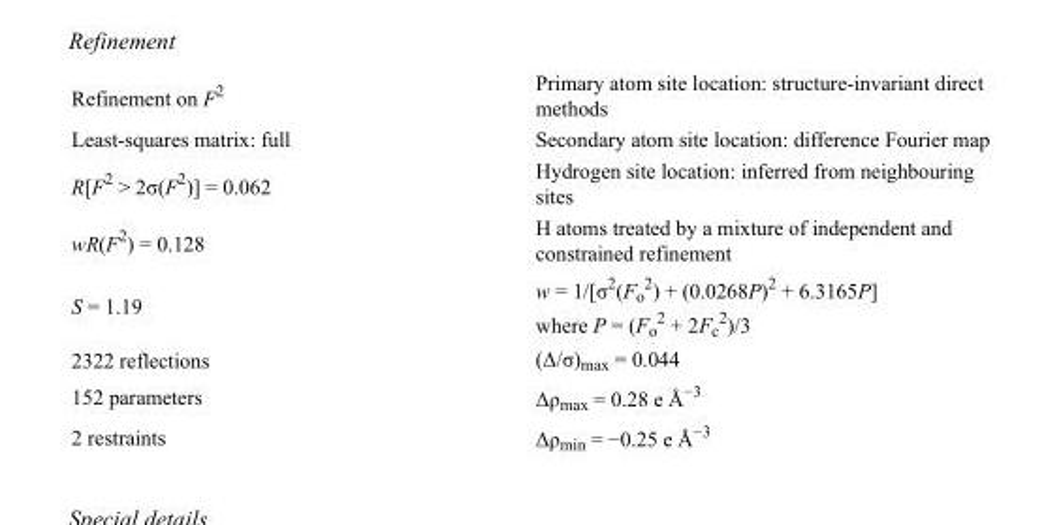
<table><tbody><tr><td>Refinement on F<sup>2</sup></td><td>Primary atom site location: structure-invariant direct methods</td></tr><tr><td>Least-squares matrix: full</td><td>Secondary atom site location: difference Fourier map</td></tr><tr><td>R[F<sup>2</sup> &gt; 2σ(F<sup>2</sup>)] = 0.062</td><td>Hydrogen site location: inferred from neighbouring sites</td></tr><tr><td>wR(F<sup>2</sup>) = 0.128</td><td>H atoms treated by a mixture of independent and constrained refinement</td></tr><tr><td>S = 1.19</td><td>w = 1/[σ<sup>2</sup>(F<sub>o</sub> <sup>2</sup>) + (0.0268P)<sup>2</sup> + 6.3165P] where P = (F<sub>o</sub> <sup>2</sup> + 2F<sub>c</sub> <sup>2</sup>)/3</td></tr><tr><td>2322 reflections</td><td>(Δ/σ)<sub>max</sub> = 0.044</td></tr><tr><td>152 parameters</td><td>Δρ<sub>max</sub> = 0.28 e Å<sup>−3</sup></td></tr><tr><td>2 restraints</td><td>Δρ<sub>min</sub> = −0.25 e Å<sup>−3</sup></td></tr></tbody></table>